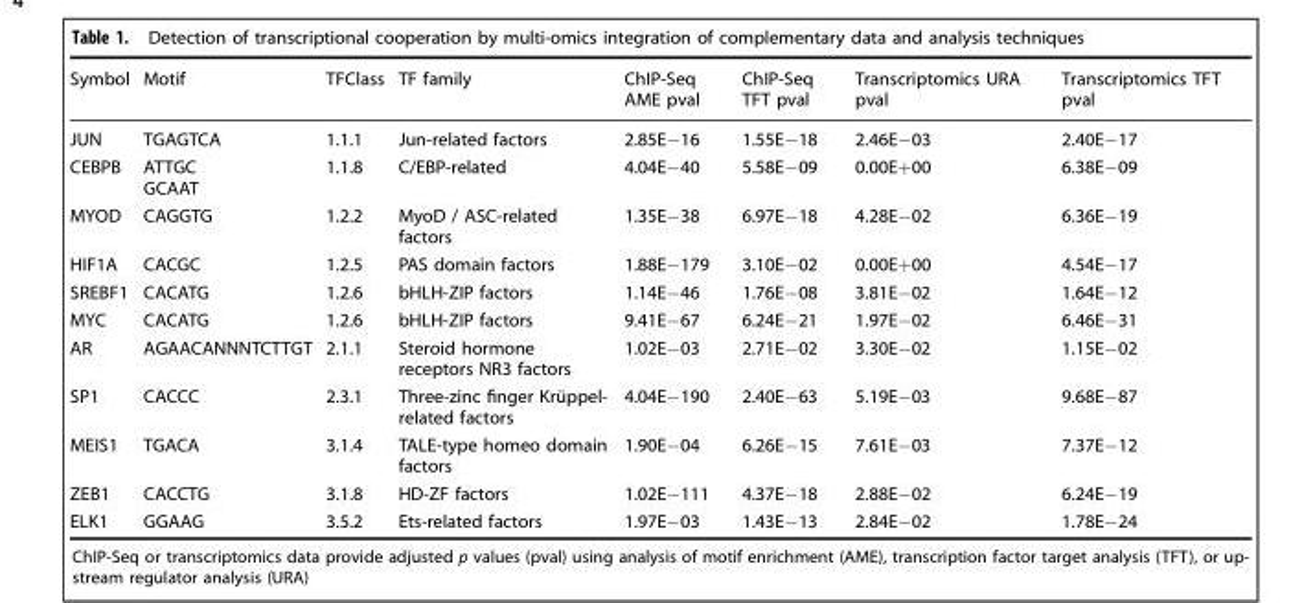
<table><thead><tr><td>Symbol</td><td>Motif</td><td>TFClass</td><td>TF family</td><td>ChIP-Seq AME pval</td><td>ChIP-Seq TFT pval</td><td>Transcriptomics URA pval</td><td>Transcriptomics TFT pval</td></tr></thead><tbody><tr><td>JUN</td><td>TGAGTCA</td><td>1.1.1</td><td>Jun-related factors</td><td>2.85E−16</td><td>1.55E−18</td><td>2.46E−03</td><td>2.40E−17</td></tr><tr><td>CEBPB</td><td>ATTGC GCAAT</td><td>1.1.8</td><td>C/EBP-related</td><td>4.04E−40</td><td>5.58E−09</td><td>0.00E+00</td><td>6.38E−09</td></tr><tr><td>MYOD</td><td>CAGGTG</td><td>1.2.2</td><td>MyoD / ASC-related factors</td><td>1.35E−38</td><td>6.97E−18</td><td>4.28E−02</td><td>6.36E−19</td></tr><tr><td>HIF1A</td><td>CACGC</td><td>1.2.5</td><td>PAS domain factors</td><td>1.88E−179</td><td>3.10E−02</td><td>0.00E+00</td><td>4.54E−17</td></tr><tr><td>SREBF1</td><td>CACATG</td><td>1.2.6</td><td>bHLH-ZIP factors</td><td>1.14E−46</td><td>1.76E−08</td><td>3.81E−02</td><td>1.64E−12</td></tr><tr><td>MYC</td><td>CACATG</td><td>1.2.6</td><td>bHLH-ZIP factors</td><td>9.41E−67</td><td>6.24E−21</td><td>1.97E−02</td><td>6.46E−31</td></tr><tr><td>AR</td><td>AGAACANNNTCTTGT</td><td>2.1.1</td><td>Steroid hormone receptors NR3 factors</td><td>1.02E−03</td><td>2.71E−02</td><td>3.30E−02</td><td>1.15E−02</td></tr><tr><td>SP1</td><td>CACCC</td><td>2.3.1</td><td>Three-zinc finger Krüppel- related factors</td><td>4.04E−190</td><td>2.40E−63</td><td>5.19E−03</td><td>9.68E−87</td></tr><tr><td>MEIS1</td><td>TGACA</td><td>3.1.4</td><td>TALE-type homeo domain factors</td><td>1.90E−04</td><td>6.26E−15</td><td>7.61E−03</td><td>7.37E−12</td></tr><tr><td>ZEB1</td><td>CACCTG</td><td>3.1.8</td><td>HD-ZF factors</td><td>1.02E−111</td><td>4.37E−18</td><td>2.88E−02</td><td>6.24E−19</td></tr><tr><td>ELK1</td><td>GGAAG</td><td>3.5.2</td><td>Ets-related factors</td><td>1.97E−03</td><td>1.43E−13</td><td>2.84E−02</td><td>1.78E−24</td></tr></tbody></table>